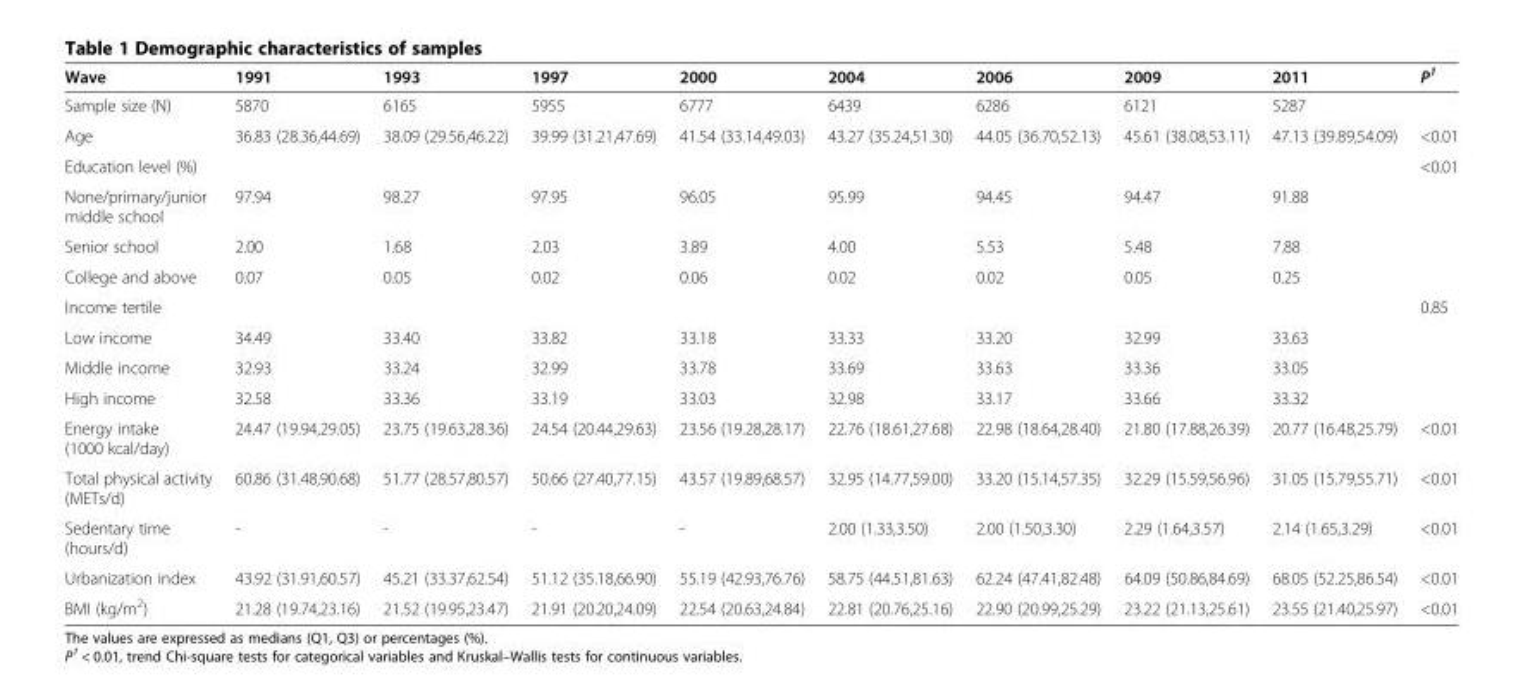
<table><thead><tr><td>Wave</td><td>1991</td><td>1993</td><td>1997</td><td>2000</td><td>2004</td><td>2006</td><td>2009</td><td>2011</td><td>P<sup>1</sup></td></tr></thead><tbody><tr><td>Sample size (N)</td><td>5870</td><td>6165</td><td>5955</td><td>6777</td><td>6439</td><td>6286</td><td>6121</td><td>5287</td><td></td></tr><tr><td>Age</td><td>36.83 (28.36,44.69)</td><td>38.09 (29.56,46.22)</td><td>39.99 (31.21,47.69)</td><td>41.54 (33.14,49.03)</td><td>43.27 (35.24,51.30)</td><td>44.05 (36.70,52.13)</td><td>45.61 (38.08,53.11)</td><td>47.13 (39.89,54.09)</td><td>&lt;0.01</td></tr><tr><td>Education level (%)</td><td></td><td></td><td></td><td></td><td></td><td></td><td></td><td></td><td>&lt;0.01</td></tr><tr><td>None/primary/junior middle school</td><td>97.94</td><td>98.27</td><td>97.95</td><td>96.05</td><td>95.99</td><td>94.45</td><td>94.47</td><td>91.88</td><td></td></tr><tr><td>Senior school</td><td>2.00</td><td>1.68</td><td>2.03</td><td>3.89</td><td>4.00</td><td>5.53</td><td>5.48</td><td>7.88</td><td></td></tr><tr><td>College and above</td><td>0.07</td><td>0.05</td><td>0.02</td><td>0.06</td><td>0.02</td><td>0.02</td><td>0.05</td><td>0.25</td><td></td></tr><tr><td>Income tertile</td><td></td><td></td><td></td><td></td><td></td><td></td><td></td><td></td><td>0.85</td></tr><tr><td>Low income</td><td>34.49</td><td>33.40</td><td>33.82</td><td>33.18</td><td>33.33</td><td>33.20</td><td>32.99</td><td>33.63</td><td></td></tr><tr><td>Middle income</td><td>32.93</td><td>33.24</td><td>32.99</td><td>33.78</td><td>33.69</td><td>33.63</td><td>33.36</td><td>33.05</td><td></td></tr><tr><td>High income</td><td>32.58</td><td>33.36</td><td>33.19</td><td>33.03</td><td>32.98</td><td>33.17</td><td>33.66</td><td>33.32</td><td></td></tr><tr><td>Energy intake (1000 kcal/day)</td><td>24.47 (19.94,29.05)</td><td>23.75 (19.63,28.36)</td><td>24.54 (20.44,29.63)</td><td>23.56 (19.28,28.17)</td><td>22.76 (18.61,27.68)</td><td>22.98 (18.64,28.40)</td><td>21.80 (17.88,26.39)</td><td>20.77 (16.48,25.79)</td><td>&lt;0.01</td></tr><tr><td>Total physical activity (METs/d)</td><td>60.86 (31.48,90.68)</td><td>51.77 (28.57,80.57)</td><td>50.66 (27.40,77.15)</td><td>43.57 (19.89,68.57)</td><td>32.95 (14.77,59.00)</td><td>33.20 (15.14,57.35)</td><td>32.29 (15.59,56.96)</td><td>31.05 (15.79,55.71)</td><td>&lt;0.01</td></tr><tr><td>Sedentary time (hours/d)</td><td>-</td><td>-</td><td>-</td><td>-</td><td>2.00 (1.33,3.50)</td><td>2.00 (1.50,3.30)</td><td>2.29 (1.64,3.57)</td><td>2.14 (1.65,3.29)</td><td>&lt;0.01</td></tr><tr><td>Urbanization index</td><td>43.92 (31.91,60.57)</td><td>45.21 (33.37,62.54)</td><td>51.12 (35.18,66.90)</td><td>55.19 (42.93,76.76)</td><td>58.75 (44.51,81.63)</td><td>62.24 (47.41,82.48)</td><td>64.09 (50.86,84.69)</td><td>68.05 (52.25,86.54)</td><td>&lt;0.01</td></tr><tr><td>BMI (kg/m<sup>2</sup>)</td><td>21.28 (19.74,23.16)</td><td>21.52 (19.95,23.47)</td><td>21.91 (20.20,24.09)</td><td>22.54 (20.63,24.84)</td><td>22.81 (20.76,25.16)</td><td>22.90 (20.99,25.29)</td><td>23.22 (21.13,25.61)</td><td>23.55 (21.40,25.97)</td><td>&lt;0.01</td></tr></tbody></table>